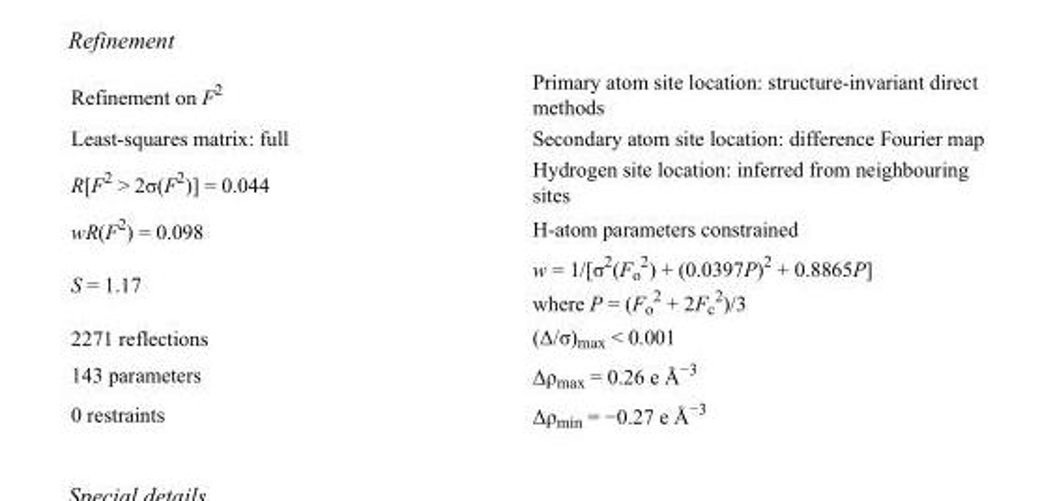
<table><tbody><tr><td>Refinement on F<sup>2</sup></td><td>Primary atom site location: structure-invariant direct methods</td></tr><tr><td>Least-squares matrix: full</td><td>Secondary atom site location: difference Fourier map</td></tr><tr><td>R[F<sup>2</sup> &gt; 2σ(F<sup>2</sup>)] = 0.044</td><td>Hydrogen site location: inferred from neighbouring sites</td></tr><tr><td>wR(F<sup>2</sup>) = 0.098</td><td>H-atom parameters constrained</td></tr><tr><td>S = 1.17</td><td>w = 1/[σ<sup>2</sup>(F<sub>o</sub> <sup>2</sup>) + (0.0397P)<sup>2</sup> + 0.8865P] where P = (F<sub>o</sub> <sup>2</sup> + 2F<sub>c</sub> <sup>2</sup>)/3</td></tr><tr><td>2271 reflections</td><td>(Δ/σ)<sub>max</sub> &lt; 0.001</td></tr><tr><td>143 parameters</td><td>Δρ<sub>max</sub> = 0.26 e Å<sup>−3</sup></td></tr><tr><td>0 restraints</td><td>Δρ<sub>min</sub> = −0.27 e Å<sup>−3</sup></td></tr></tbody></table>